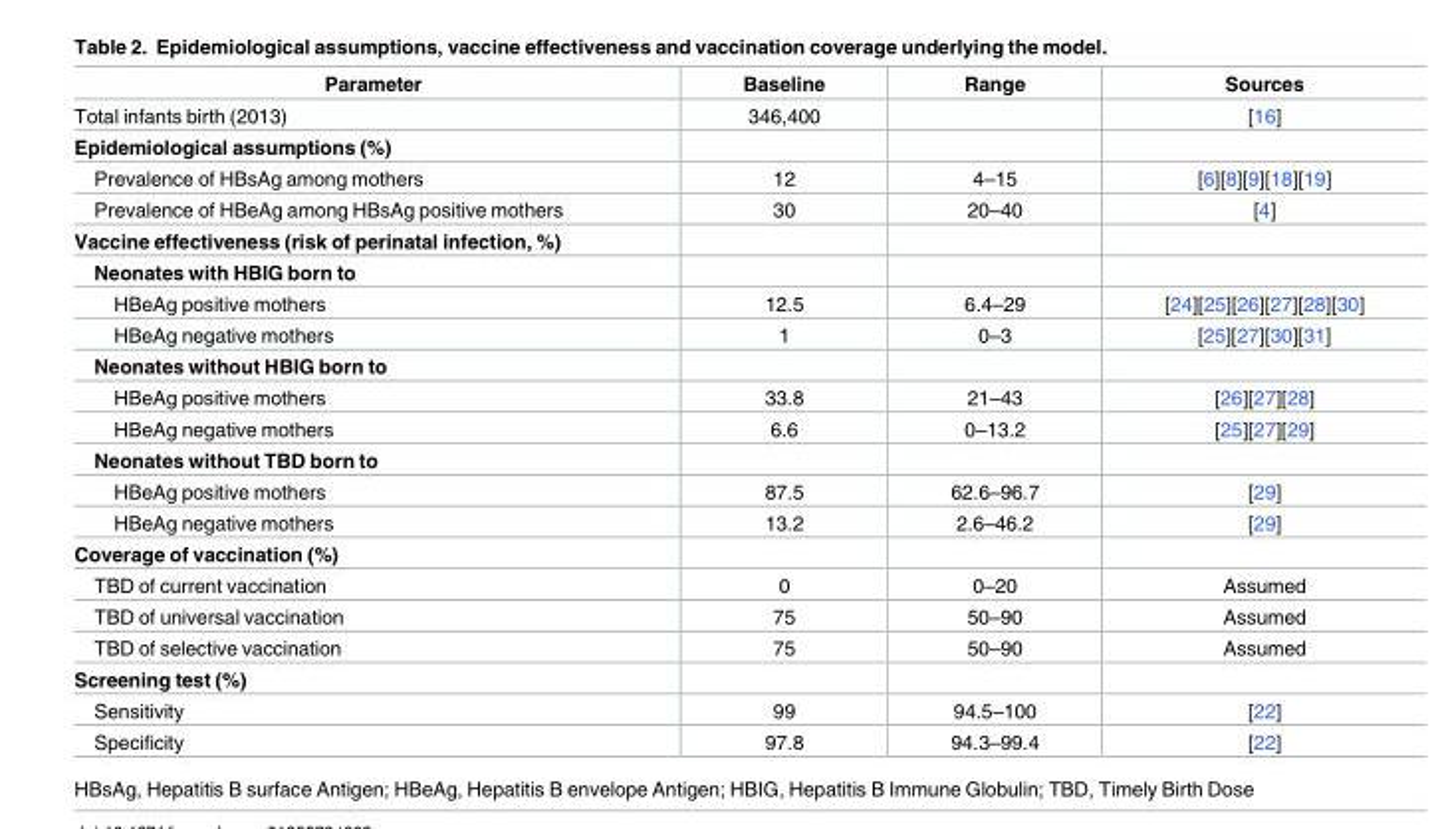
<table><thead><tr><td>Parameter</td><td>Baseline</td><td>Range</td><td>Sources</td></tr></thead><tbody><tr><td>Total infants birth (2013)</td><td>346,400</td><td></td><td>[16]</td></tr><tr><td colspan="4">Epidemiological assumptions (%)</td></tr><tr><td>Prevalence of HBsAg among mothers</td><td>12</td><td>4–15</td><td>[6][8][9][18][19]</td></tr><tr><td>Prevalence of HBeAg among HBsAg positive mothers</td><td>30</td><td>20–40</td><td>[4]</td></tr><tr><td colspan="4">Vaccine effectiveness (risk of perinatal infection, %)</td></tr><tr><td colspan="4">Neonates with HBIG born to</td></tr><tr><td>HBeAg positive mothers</td><td>12.5</td><td>6.4–29</td><td>[24][25][26][27][28][30]</td></tr><tr><td>HBeAg negative mothers</td><td>1</td><td>0–3</td><td>[25][27][30][31]</td></tr><tr><td colspan="4">Neonates without HBIG born to</td></tr><tr><td>HBeAg positive mothers</td><td>33.8</td><td>21–43</td><td>[26][27][28]</td></tr><tr><td>HBeAg negative mothers</td><td>6.6</td><td>0–13.2</td><td>[25][27][29]</td></tr><tr><td colspan="4">Neonates without TBD born to</td></tr><tr><td>HBeAg positive mothers</td><td>87.5</td><td>62.6–96.7</td><td>[29]</td></tr><tr><td>HBeAg negative mothers</td><td>13.2</td><td>2.6–46.2</td><td>[29]</td></tr><tr><td colspan="4">Coverage of vaccination (%)</td></tr><tr><td>TBD of current vaccination</td><td>0</td><td>0–20</td><td>Assumed</td></tr><tr><td>TBD of universal vaccination</td><td>75</td><td>50–90</td><td>Assumed</td></tr><tr><td>TBD of selective vaccination</td><td>75</td><td>50–90</td><td>Assumed</td></tr><tr><td colspan="4">Screening test (%)</td></tr><tr><td>Sensitivity</td><td>99</td><td>94.5–100</td><td>[22]</td></tr><tr><td>Specificity</td><td>97.8</td><td>94.3–99.4</td><td>[22]</td></tr></tbody></table>